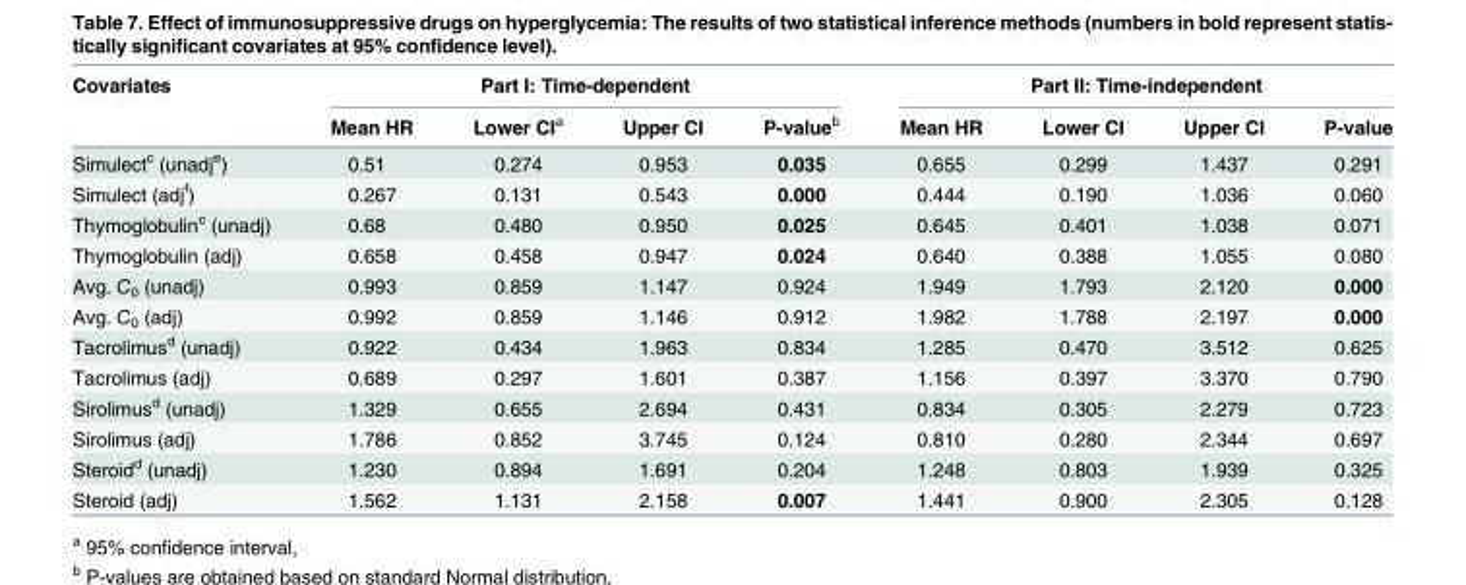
<table><thead><tr><td rowspan="2">Covariates</td><td colspan="4">Part I: Time-dependent</td><td colspan="4">Part II: Time-independent</td></tr><tr><td>Mean HR</td><td>Lower CI<sup>a</sup></td><td>Upper CI</td><td>P-value<sup>b</sup></td><td>Mean HR</td><td>Lower CI</td><td>Upper CI</td><td>P-value</td></tr></thead><tbody><tr><td>Simulect<sup>c</sup> (unadj<sup>e</sup>)</td><td>0.51</td><td>0.274</td><td>0.953</td><td>0.035</td><td>0.655</td><td>0.299</td><td>1.437</td><td>0.291</td></tr><tr><td>Simulect (adj<sup>f</sup>)</td><td>0.267</td><td>0.131</td><td>0.543</td><td>0.000</td><td>0.444</td><td>0.190</td><td>1.036</td><td>0.060</td></tr><tr><td>Thymoglobulin<sup>c</sup> (unadj)</td><td>0.68</td><td>0.480</td><td>0.950</td><td>0.025</td><td>0.645</td><td>0.401</td><td>1.038</td><td>0.071</td></tr><tr><td>Thymoglobulin (adj)</td><td>0.658</td><td>0.458</td><td>0.947</td><td>0.024</td><td>0.640</td><td>0.388</td><td>1.055</td><td>0.080</td></tr><tr><td>Avg. C<sub>0</sub> (unadj)</td><td>0.993</td><td>0.859</td><td>1.147</td><td>0.924</td><td>1.949</td><td>1.793</td><td>2.120</td><td>0.000</td></tr><tr><td>Avg. C<sub>0</sub> (adj)</td><td>0.992</td><td>0.859</td><td>1.146</td><td>0.912</td><td>1.982</td><td>1.788</td><td>2.197</td><td>0.000</td></tr><tr><td>Tacrolimus<sup>d</sup> (unadj)</td><td>0.922</td><td>0.434</td><td>1.963</td><td>0.834</td><td>1.285</td><td>0.470</td><td>3.512</td><td>0.625</td></tr><tr><td>Tacrolimus (adj)</td><td>0.689</td><td>0.297</td><td>1.601</td><td>0.387</td><td>1.156</td><td>0.397</td><td>3.370</td><td>0.790</td></tr><tr><td>Sirolimus<sup>d</sup> (unadj)</td><td>1.329</td><td>0.655</td><td>2.694</td><td>0.431</td><td>0.834</td><td>0.305</td><td>2.279</td><td>0.723</td></tr><tr><td>Sirolimus (adj)</td><td>1.786</td><td>0.852</td><td>3.745</td><td>0.124</td><td>0.810</td><td>0.280</td><td>2.344</td><td>0.697</td></tr><tr><td>Steroid<sup>d</sup> (unadj)</td><td>1.230</td><td>0.894</td><td>1.691</td><td>0.204</td><td>1.248</td><td>0.803</td><td>1.939</td><td>0.325</td></tr><tr><td>Steroid (adj)</td><td>1.562</td><td>1.131</td><td>2.158</td><td>0.007</td><td>1.441</td><td>0.900</td><td>2.305</td><td>0.128</td></tr></tbody></table>